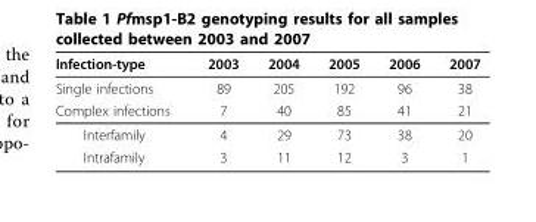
<table><thead><tr><td>Infection-type</td><td>2003</td><td>2004</td><td>2005</td><td>2006</td><td>2007</td></tr></thead><tbody><tr><td>Single infections</td><td>89</td><td>205</td><td>192</td><td>96</td><td>38</td></tr><tr><td>Complex infections</td><td>7</td><td>40</td><td>85</td><td>41</td><td>21</td></tr><tr><td>Interfamily</td><td>4</td><td>29</td><td>73</td><td>38</td><td>20</td></tr><tr><td>Intrafamily</td><td>3</td><td>11</td><td>12</td><td>3</td><td>1</td></tr></tbody></table>